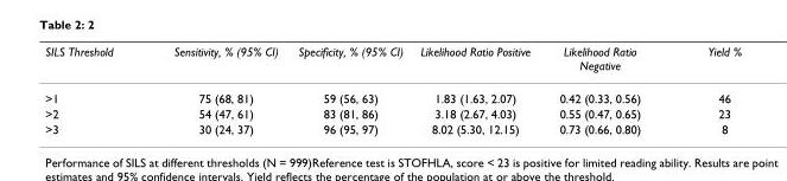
<table><thead><tr><td>SILS Threshold</td><td>Sensitivity, % (95% CI)</td><td>Specificity, % (95% CI)</td><td>Likelihood Ratio Positive</td><td>Likelihood Ratio Negative</td><td>Yield %</td></tr></thead><tbody><tr><td>&gt;1</td><td>75 (68, 81)</td><td>59 (56, 63)</td><td>1.83 (1.63, 2.07)</td><td>0.42 (0.33, 0.56)</td><td>46</td></tr><tr><td>&gt;2</td><td>54 (47, 61)</td><td>83 (81, 86)</td><td>3.18 (2.67, 4.03)</td><td>0.55 (0.47, 0.65)</td><td>23</td></tr><tr><td>&gt;3</td><td>30 (24, 37)</td><td>96 (95, 97)</td><td>8.02 (5.30, 12.15)</td><td>0.73 (0.66, 0.80)</td><td>8</td></tr></tbody></table>